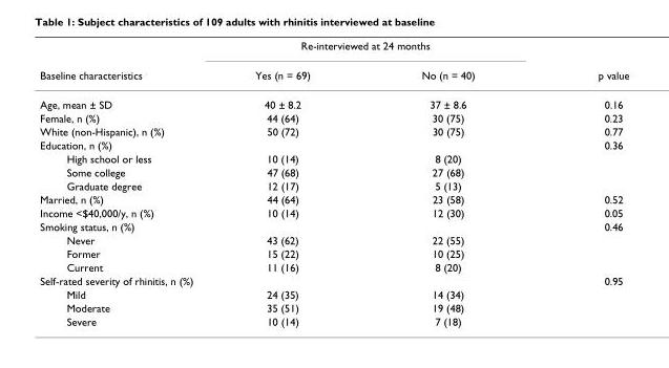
<table><thead><tr><td rowspan="2">Baseline characteristics</td><td colspan="2">Re-interviewed at 24 months</td><td rowspan="2">p value</td></tr><tr><td>Yes (n = 69)</td><td>No (n = 40)</td></tr></thead><tbody><tr><td>Age, mean ± SD</td><td>40 ± 8.2</td><td>37 ± 8.6</td><td>0.16</td></tr><tr><td>Female, n (%)</td><td>44 (64)</td><td>30 (75)</td><td>0.23</td></tr><tr><td>White (non-Hispanic), n (%)</td><td>50 (72)</td><td>30 (75)</td><td>0.77</td></tr><tr><td>Education, n (%)</td><td></td><td></td><td>0.36</td></tr><tr><td>High school or less</td><td>10 (14)</td><td>8 (20)</td><td></td></tr><tr><td>Some college</td><td>47 (68)</td><td>27 (68)</td><td></td></tr><tr><td>Graduate degree</td><td>12 (17)</td><td>5 (13)</td><td></td></tr><tr><td>Married, n (%)</td><td>44 (64)</td><td>23 (58)</td><td>0.52</td></tr><tr><td>Income &lt;$40,000/y, n (%)</td><td>10 (14)</td><td>12 (30)</td><td>0.05</td></tr><tr><td>Smoking status, n (%)</td><td></td><td></td><td>0.46</td></tr><tr><td>Never</td><td>43 (62)</td><td>22 (55)</td><td></td></tr><tr><td>Former</td><td>15 (22)</td><td>10 (25)</td><td></td></tr><tr><td>Current</td><td>11 (16)</td><td>8 (20)</td><td></td></tr><tr><td>Self-rated severity of rhinitis, n (%)</td><td></td><td></td><td>0.95</td></tr><tr><td>Mild</td><td>24 (35)</td><td>14 (34)</td><td></td></tr><tr><td>Moderate</td><td>35 (51)</td><td>19 (48)</td><td></td></tr><tr><td>Severe</td><td>10 (14)</td><td>7 (18)</td><td></td></tr></tbody></table>